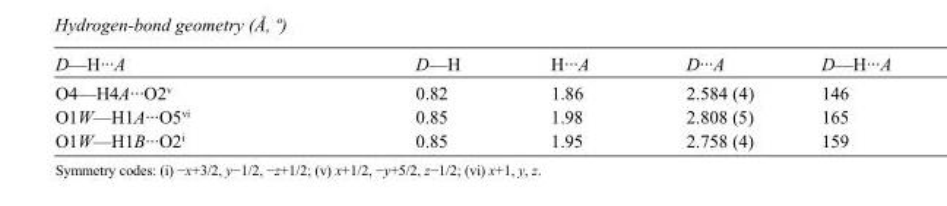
<table><tbody><tr><td>D—H···A</td><td>D—H</td><td>H···A</td><td>D···A</td><td>D—H···A</td></tr><tr><td>O4—H4A···O2<sup>v</sup></td><td>0.82</td><td>1.86</td><td>2.584 (4)</td><td>146</td></tr><tr><td>O1W—H1A···O5<sup>vi</sup></td><td>0.85</td><td>1.98</td><td>2.808 (5)</td><td>165</td></tr><tr><td>O1W—H1B···O2<sup>i</sup></td><td>0.85</td><td>1.95</td><td>2.758 (4)</td><td>159</td></tr></tbody></table>